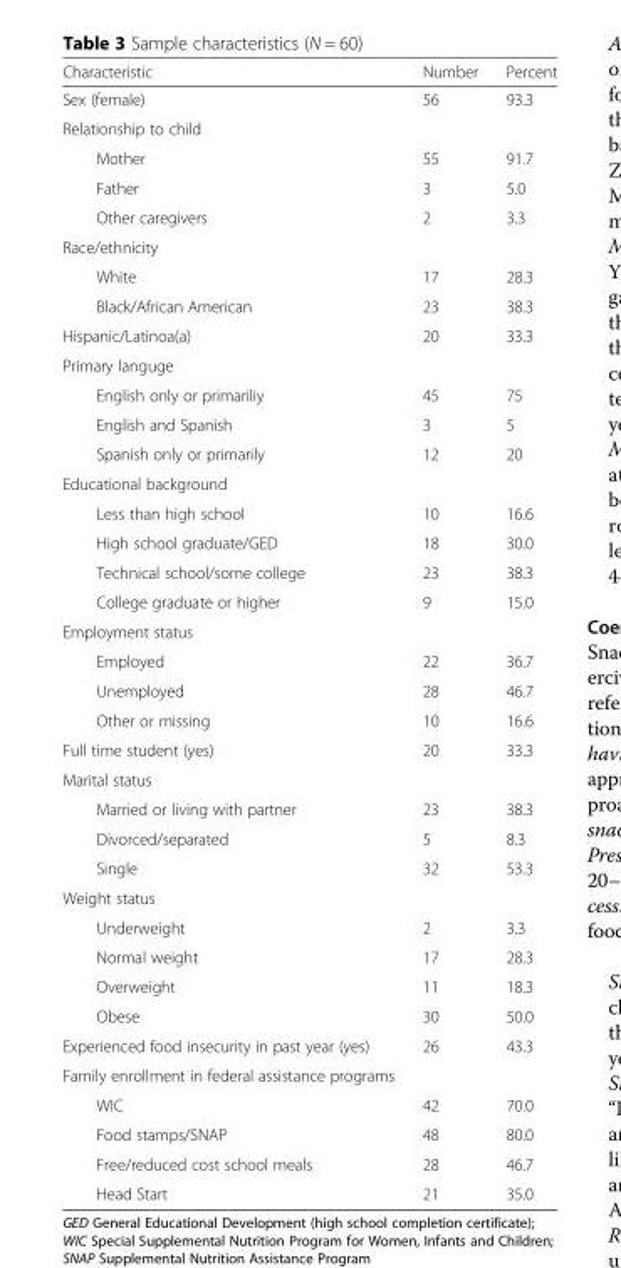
<table><thead><tr><td>Characteristic</td><td>Number</td><td>Percent</td></tr></thead><tbody><tr><td>Sex (female)</td><td>56</td><td>93.3</td></tr><tr><td colspan="3">Relationship to child</td></tr><tr><td>Mother</td><td>55</td><td>91.7</td></tr><tr><td>Father</td><td>3</td><td>5.0</td></tr><tr><td>Other caregivers</td><td>2</td><td>3.3</td></tr><tr><td colspan="3">Race/ethnicity</td></tr><tr><td>White</td><td>17</td><td>28.3</td></tr><tr><td>Black/African American</td><td>23</td><td>38.3</td></tr><tr><td>Hispanic/Latinoa(a)</td><td>20</td><td>33.3</td></tr><tr><td colspan="3">Primary languge</td></tr><tr><td>English only or primariliy</td><td>45</td><td>75</td></tr><tr><td>English and Spanish</td><td>3</td><td>5</td></tr><tr><td>Spanish only or primarily</td><td>12</td><td>20</td></tr><tr><td colspan="3">Educational background</td></tr><tr><td>Less than high school</td><td>10</td><td>16.6</td></tr><tr><td>High school graduate/GED</td><td>18</td><td>30.0</td></tr><tr><td>Technical school/some college</td><td>23</td><td>38.3</td></tr><tr><td>College graduate or higher</td><td>9</td><td>15.0</td></tr><tr><td colspan="3">Employment status</td></tr><tr><td>Employed</td><td>22</td><td>36.7</td></tr><tr><td>Unemployed</td><td>28</td><td>46.7</td></tr><tr><td>Other or missing</td><td>10</td><td>16.6</td></tr><tr><td>Full time student (yes)</td><td>20</td><td>33.3</td></tr><tr><td colspan="3">Marital status</td></tr><tr><td>Married or living with partner</td><td>23</td><td>38.3</td></tr><tr><td>Divorced/separated</td><td>5</td><td>8.3</td></tr><tr><td>Single</td><td>32</td><td>53.3</td></tr><tr><td colspan="3">Weight status</td></tr><tr><td>Underweight</td><td>2</td><td>3.3</td></tr><tr><td>Normal weight</td><td>17</td><td>28.3</td></tr><tr><td>Overweight</td><td>11</td><td>18.3</td></tr><tr><td>Obese</td><td>30</td><td>50.0</td></tr><tr><td>Experienced food insecurity in past year (yes)</td><td>26</td><td>43.3</td></tr><tr><td colspan="3">Family enrollment in federal assistance programs</td></tr><tr><td>WIC</td><td>42</td><td>70.0</td></tr><tr><td>Food stamps/SNAP</td><td>48</td><td>80.0</td></tr><tr><td>Free/reduced cost school meals</td><td>28</td><td>46.7</td></tr><tr><td>Head Start</td><td>21</td><td>35.0</td></tr></tbody></table>